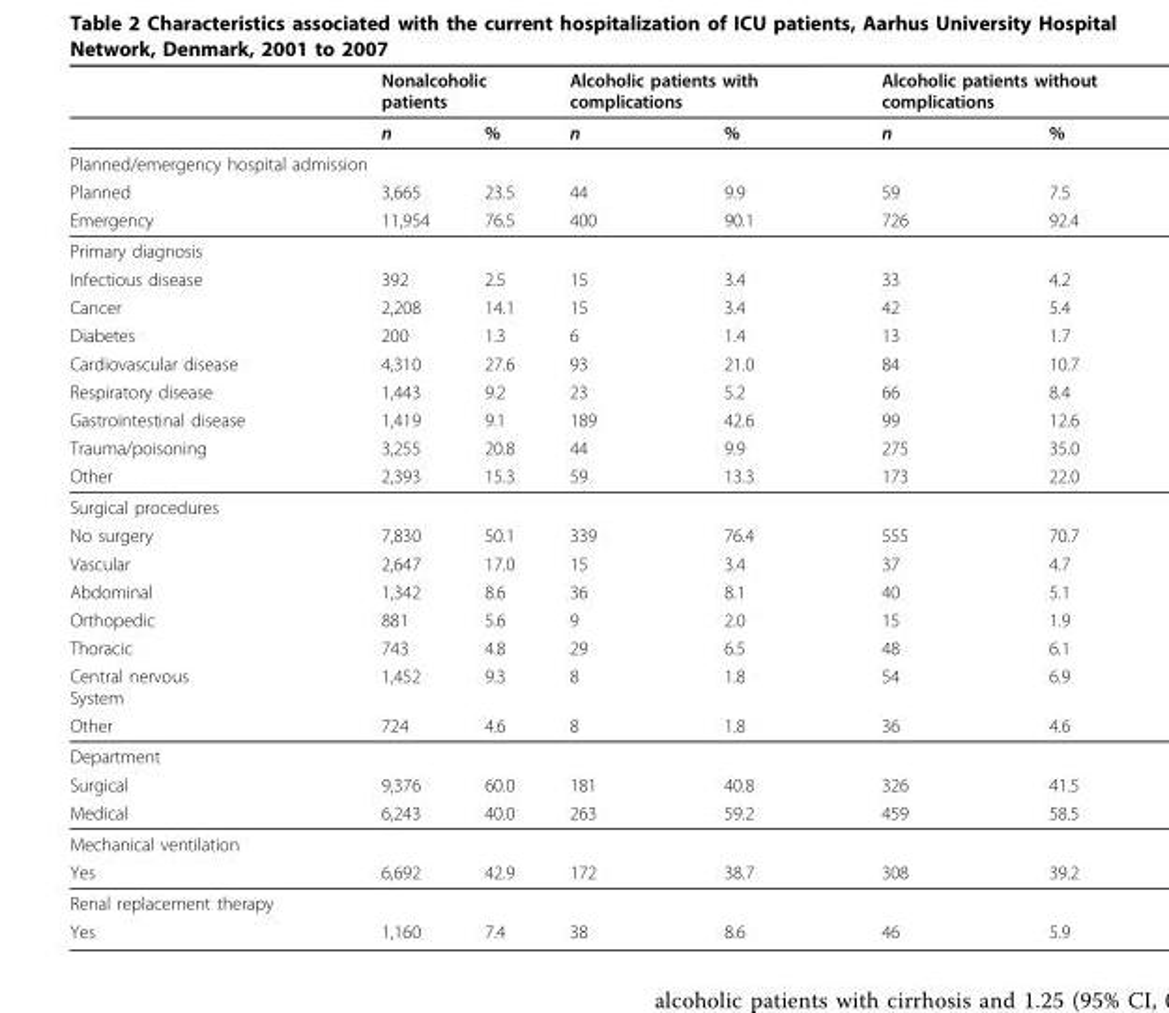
<table><thead><tr><td rowspan="2"></td><td colspan="2">Nonalcoholic patients</td><td colspan="2">Alcoholic patients with complications</td><td colspan="2">Alcoholic patients without complications</td></tr><tr><td>n</td><td>%</td><td>n</td><td>%</td><td>n</td><td>%</td></tr></thead><tbody><tr><td colspan="7">Planned/emergency hospital admission</td></tr><tr><td>Planned</td><td>3,665</td><td>23.5</td><td>44</td><td>9.9</td><td>59</td><td>7.5</td></tr><tr><td>Emergency</td><td>11,954</td><td>76.5</td><td>400</td><td>90.1</td><td>726</td><td>92.4</td></tr><tr><td colspan="7">Primary diagnosis</td></tr><tr><td>Infectious disease</td><td>392</td><td>2.5</td><td>15</td><td>3.4</td><td>33</td><td>4.2</td></tr><tr><td>Cancer</td><td>2,208</td><td>14.1</td><td>15</td><td>3.4</td><td>42</td><td>5.4</td></tr><tr><td>Diabetes</td><td>200</td><td>1.3</td><td>6</td><td>1.4</td><td>13</td><td>1.7</td></tr><tr><td>Cardiovascular disease</td><td>4,310</td><td>27.6</td><td>93</td><td>21.0</td><td>84</td><td>10.7</td></tr><tr><td>Respiratory disease</td><td>1,443</td><td>9.2</td><td>23</td><td>5.2</td><td>66</td><td>8.4</td></tr><tr><td>Gastrointestinal disease</td><td>1,419</td><td>9.1</td><td>189</td><td>42.6</td><td>99</td><td>12.6</td></tr><tr><td>Trauma/poisoning</td><td>3,255</td><td>20.8</td><td>44</td><td>9.9</td><td>275</td><td>35.0</td></tr><tr><td>Other</td><td>2,393</td><td>15.3</td><td>59</td><td>13.3</td><td>173</td><td>22.0</td></tr><tr><td colspan="7">Surgical procedures</td></tr><tr><td>No surgery</td><td>7,830</td><td>50.1</td><td>339</td><td>76.4</td><td>555</td><td>70.7</td></tr><tr><td>Vascular</td><td>2,647</td><td>17.0</td><td>15</td><td>3.4</td><td>37</td><td>4.7</td></tr><tr><td>Abdominal</td><td>1,342</td><td>8.6</td><td>36</td><td>8.1</td><td>40</td><td>5.1</td></tr><tr><td>Orthopedic</td><td>881</td><td>5.6</td><td>9</td><td>2.0</td><td>15</td><td>1.9</td></tr><tr><td>Thoracic</td><td>743</td><td>4.8</td><td>29</td><td>6.5</td><td>48</td><td>6.1</td></tr><tr><td>Central nervous System</td><td>1,452</td><td>9.3</td><td>8</td><td>1.8</td><td>54</td><td>6.9</td></tr><tr><td>Other</td><td>724</td><td>4.6</td><td>8</td><td>1.8</td><td>36</td><td>4.6</td></tr><tr><td colspan="7">Department</td></tr><tr><td>Surgical</td><td>9,376</td><td>60.0</td><td>181</td><td>40.8</td><td>326</td><td>41.5</td></tr><tr><td>Medical</td><td>6,243</td><td>40.0</td><td>263</td><td>59.2</td><td>459</td><td>58.5</td></tr><tr><td colspan="7">Mechanical ventilation</td></tr><tr><td>Yes</td><td>6,692</td><td>42.9</td><td>172</td><td>38.7</td><td>308</td><td>39.2</td></tr><tr><td colspan="7">Renal replacement therapy</td></tr><tr><td>Yes</td><td>1,160</td><td>7.4</td><td>38</td><td>8.6</td><td>46</td><td>5.9</td></tr></tbody></table>